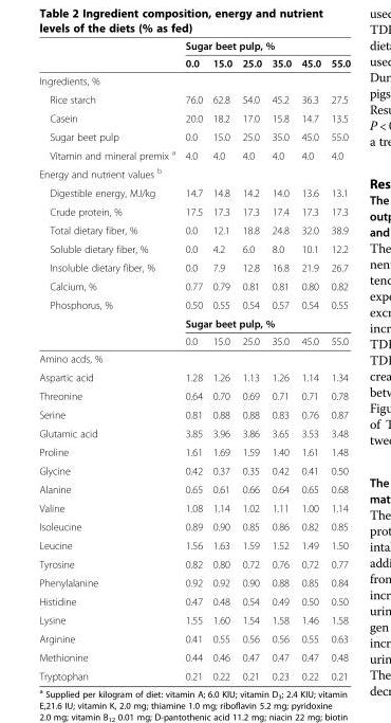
<table><thead><tr><td rowspan="2"></td><td colspan="6">Sugar beet pulp, %</td></tr><tr><td>0.0</td><td>15.0</td><td>25.0</td><td>35.0</td><td>45.0</td><td>55.0</td></tr></thead><tbody><tr><td colspan="7">Ingredients, %</td></tr><tr><td>Rice starch</td><td>76.0</td><td>62.8</td><td>54.0</td><td>45.2</td><td>36.3</td><td>27.5</td></tr><tr><td>Casein</td><td>20.0</td><td>18.2</td><td>17.0</td><td>15.8</td><td>14.7</td><td>13.5</td></tr><tr><td>Sugar beet pulp</td><td>0.0</td><td>15.0</td><td>25.0</td><td>35.0</td><td>45.0</td><td>55.0</td></tr><tr><td>Vitamin and mineral premix <sup>a</sup></td><td>4.0</td><td>4.0</td><td>4.0</td><td>4.0</td><td>4.0</td><td>4.0</td></tr><tr><td colspan="7">Energy and nutrient values <sup>b</sup></td></tr><tr><td>Digestible energy, MJ/kg</td><td>14.7</td><td>14.8</td><td>14.2</td><td>14.0</td><td>13.6</td><td>13.1</td></tr><tr><td>Crude protein, %</td><td>17.5</td><td>17.3</td><td>17.3</td><td>17.4</td><td>17.3</td><td>17.3</td></tr><tr><td>Total dietary fiber, %</td><td>0.0</td><td>12.1</td><td>18.8</td><td>24.8</td><td>32.0</td><td>38.9</td></tr><tr><td>Soluble dietary fiber, %</td><td>0.0</td><td>4.2</td><td>6.0</td><td>8.0</td><td>10.1</td><td>12.2</td></tr><tr><td>Insoluble dietary fiber, %</td><td>0.0</td><td>7.9</td><td>12.8</td><td>16.8</td><td>21.9</td><td>26.7</td></tr><tr><td>Calcium, %</td><td>0.77</td><td>0.79</td><td>0.81</td><td>0.81</td><td>0.80</td><td>0.82</td></tr><tr><td rowspan="3">Phosphorus, %</td><td>0.50</td><td>0.55</td><td>0.54</td><td>0.57</td><td>0.54</td><td>0.55</td></tr><tr><td colspan="6">Sugar beet pulp, %</td></tr><tr><td>0.0</td><td>15.0</td><td>25.0</td><td>35.0</td><td>45.0</td><td>55.0</td></tr><tr><td colspan="7">Amino acds, %</td></tr><tr><td>Aspartic acid</td><td>1.28</td><td>1.26</td><td>1.13</td><td>1.26</td><td>1.14</td><td>1.34</td></tr><tr><td>Threonine</td><td>0.64</td><td>0.70</td><td>0.69</td><td>0.71</td><td>0.71</td><td>0.78</td></tr><tr><td>Serine</td><td>0.81</td><td>0.88</td><td>0.88</td><td>0.83</td><td>0.76</td><td>0.87</td></tr><tr><td>Glutamic acid</td><td>3.85</td><td>3.96</td><td>3.86</td><td>3.65</td><td>3.53</td><td>3.48</td></tr><tr><td>Proline</td><td>1.61</td><td>1.69</td><td>1.59</td><td>1.40</td><td>1.61</td><td>1.48</td></tr><tr><td>Glycine</td><td>0.42</td><td>0.37</td><td>0.35</td><td>0.42</td><td>0.41</td><td>0.50</td></tr><tr><td>Alanine</td><td>0.65</td><td>0.61</td><td>0.66</td><td>0.64</td><td>0.65</td><td>0.68</td></tr><tr><td>Valine</td><td>1.08</td><td>1.14</td><td>1.02</td><td>1.11</td><td>1.00</td><td>1.14</td></tr><tr><td>Isoleucine</td><td>0.89</td><td>0.90</td><td>0.85</td><td>0.86</td><td>0.82</td><td>0.85</td></tr><tr><td>Leucine</td><td>1.56</td><td>1.63</td><td>1.59</td><td>1.52</td><td>1.49</td><td>1.50</td></tr><tr><td>Tyrosine</td><td>0.82</td><td>0.80</td><td>0.72</td><td>0.76</td><td>0.72</td><td>0.77</td></tr><tr><td>Phenylalanine</td><td>0.92</td><td>0.92</td><td>0.90</td><td>0.88</td><td>0.85</td><td>0.84</td></tr><tr><td>Histidine</td><td>0.47</td><td>0.48</td><td>0.54</td><td>0.49</td><td>0.50</td><td>0.50</td></tr><tr><td>Lysine</td><td>1.55</td><td>1.60</td><td>1.54</td><td>1.58</td><td>1.46</td><td>1.58</td></tr><tr><td>Arginine</td><td>0.41</td><td>0.55</td><td>0.56</td><td>0.56</td><td>0.55</td><td>0.63</td></tr><tr><td>Methionine</td><td>0.44</td><td>0.46</td><td>0.47</td><td>0.47</td><td>0.47</td><td>0.48</td></tr><tr><td>Tryptophan</td><td>0.21</td><td>0.22</td><td>0.21</td><td>0.23</td><td>0.22</td><td>0.21</td></tr></tbody></table>